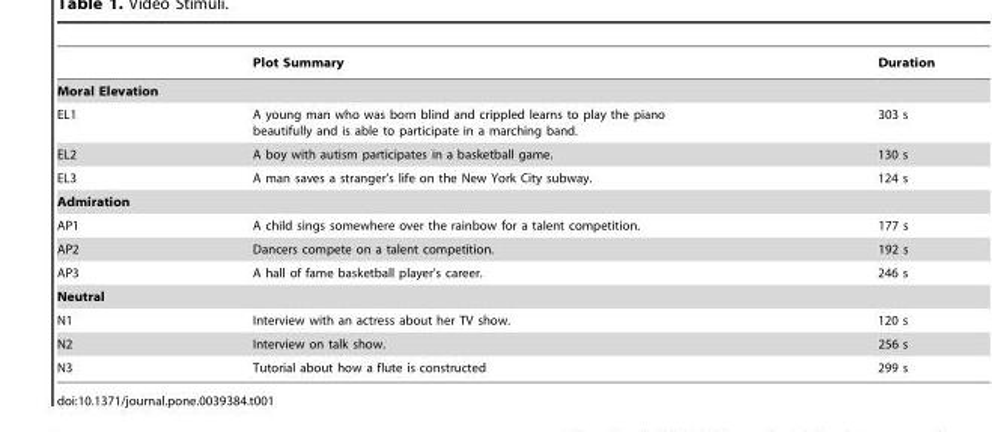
<table><thead><tr><td></td><td>Plot Summary</td><td>Duration</td></tr></thead><tbody><tr><td colspan="3">Moral Elevation</td></tr><tr><td>EL1</td><td>A young man who was born blind and crippled learns to play the piano beautifully and is able to participate in a marching band.</td><td>303 s</td></tr><tr><td>EL2</td><td>A boy with autism participates in a basketball game.</td><td>130 s</td></tr><tr><td>EL3</td><td>A man saves a stranger’s life on the New York City subway.</td><td>124 s</td></tr><tr><td colspan="3">Admiration</td></tr><tr><td>AP1</td><td>A child sings somewhere over the rainbow for a talent competition.</td><td>177 s</td></tr><tr><td>AP2</td><td>Dancers compete on a talent competition.</td><td>192 s</td></tr><tr><td>AP3</td><td>A hall of fame basketball player’s career.</td><td>246 s</td></tr><tr><td colspan="3">Neutral</td></tr><tr><td>N1</td><td>Interview with an actress about her TV show.</td><td>120 s</td></tr><tr><td>N2</td><td>Interview on talk show.</td><td>256 s</td></tr><tr><td>N3</td><td>Tutorial about how a flute is constructed</td><td>299 s</td></tr></tbody></table>